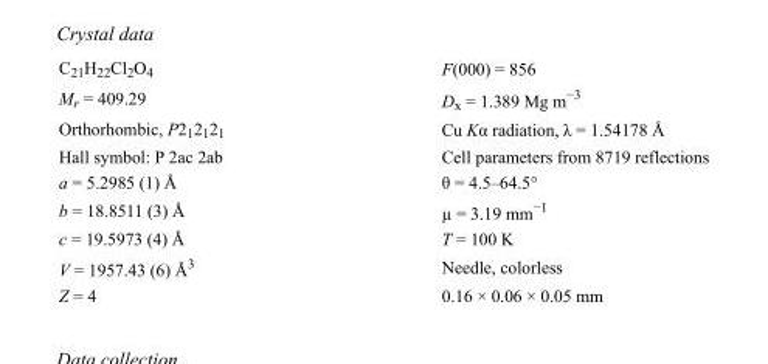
<table><tbody><tr><td>C<sub>21</sub>H<sub>22</sub>Cl<sub>2</sub>O<sub>4</sub></td><td>F(000) = 856</td></tr><tr><td>M<sub>r</sub> = 409.29</td><td>D<sub>x</sub> = 1.389 Mg m<sup>−3</sup></td></tr><tr><td>Orthorhombic, P2<sub>1</sub>2<sub>1</sub>2<sub>1</sub></td><td>Cu Kα radiation, λ = 1.54178 Å</td></tr><tr><td>Hall symbol: P 2ac 2ab</td><td>Cell parameters from 8719 reflections</td></tr><tr><td>a = 5.2985 (1) Å</td><td>θ = 4.5–64.5°</td></tr><tr><td>b = 18.8511 (3) Å</td><td>µ = 3.19 mm<sup>−1</sup></td></tr><tr><td>c = 19.5973 (4) Å</td><td>T = 100 K</td></tr><tr><td>V = 1957.43 (6) Å<sup>3</sup></td><td>Needle, colorless</td></tr><tr><td>Z = 4</td><td>0.16 × 0.06 × 0.05 mm</td></tr></tbody></table>